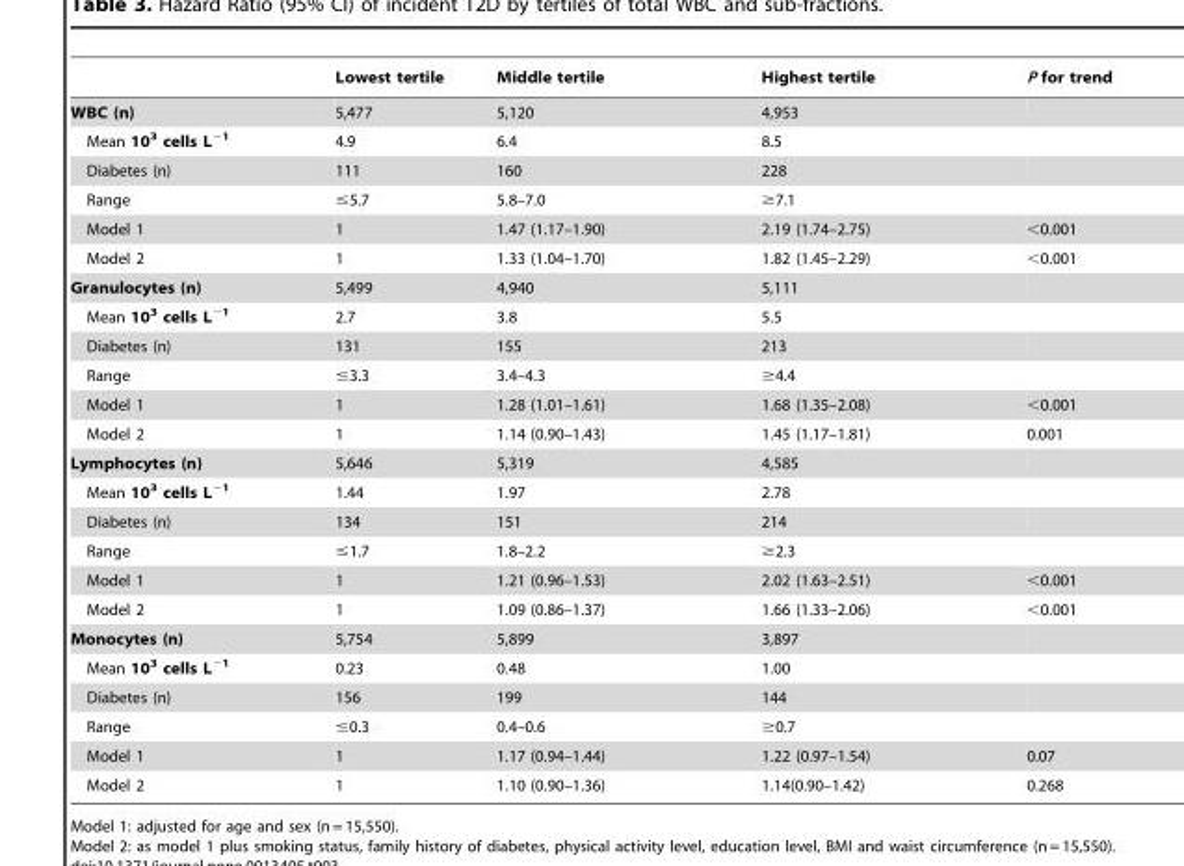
<table><thead><tr><td></td><td>Lowest tertile</td><td>Middle tertile</td><td>Highest tertile</td><td>P for trend</td></tr></thead><tbody><tr><td>WBC (n)</td><td>5,477</td><td>5,120</td><td>4,953</td><td></td></tr><tr><td>Mean 10<sup>3</sup> cells L<sup>−1</sup></td><td>4.9</td><td>6.4</td><td>8.5</td><td></td></tr><tr><td>Diabetes (n)</td><td>111</td><td>160</td><td>228</td><td></td></tr><tr><td>Range</td><td>≤5.7</td><td>5.8–7.0</td><td>≥7.1</td><td></td></tr><tr><td>Model 1</td><td>1</td><td>1.47 (1.17–1.90)</td><td>2.19 (1.74–2.75)</td><td>&lt;0.001</td></tr><tr><td>Model 2</td><td>1</td><td>1.33 (1.04–1.70)</td><td>1.82 (1.45–2.29)</td><td>&lt;0.001</td></tr><tr><td>Granulocytes (n)</td><td>5,499</td><td>4,940</td><td>5,111</td><td></td></tr><tr><td>Mean 10<sup>3</sup> cells L<sup>−1</sup></td><td>2.7</td><td>3.8</td><td>5.5</td><td></td></tr><tr><td>Diabetes (n)</td><td>131</td><td>155</td><td>213</td><td></td></tr><tr><td>Range</td><td>≤3.3</td><td>3.4–4.3</td><td>≥4.4</td><td></td></tr><tr><td>Model 1</td><td>1</td><td>1.28 (1.01–1.61)</td><td>1.68 (1.35–2.08)</td><td>&lt;0.001</td></tr><tr><td>Model 2</td><td>1</td><td>1.14 (0.90–1.43)</td><td>1.45 (1.17–1.81)</td><td>0.001</td></tr><tr><td>Lymphocytes (n)</td><td>5,646</td><td>5,319</td><td>4,585</td><td></td></tr><tr><td>Mean 10<sup>3</sup> cells L<sup>−1</sup></td><td>1.44</td><td>1.97</td><td>2.78</td><td></td></tr><tr><td>Diabetes (n)</td><td>134</td><td>151</td><td>214</td><td></td></tr><tr><td>Range</td><td>≤1.7</td><td>1.8–2.2</td><td>≥2.3</td><td></td></tr><tr><td>Model 1</td><td>1</td><td>1.21 (0.96–1.53)</td><td>2.02 (1.63–2.51)</td><td>&lt;0.001</td></tr><tr><td>Model 2</td><td>1</td><td>1.09 (0.86–1.37)</td><td>1.66 (1.33–2.06)</td><td>&lt;0.001</td></tr><tr><td>Monocytes (n)</td><td>5,754</td><td>5,899</td><td>3,897</td><td></td></tr><tr><td>Mean 10<sup>3</sup> cells L<sup>−1</sup></td><td>0.23</td><td>0.48</td><td>1.00</td><td></td></tr><tr><td>Diabetes (n)</td><td>156</td><td>199</td><td>144</td><td></td></tr><tr><td>Range</td><td>≤0.3</td><td>0.4–0.6</td><td>≥0.7</td><td></td></tr><tr><td>Model 1</td><td>1</td><td>1.17 (0.94–1.44)</td><td>1.22 (0.97–1.54)</td><td>0.07</td></tr><tr><td>Model 2</td><td>1</td><td>1.10 (0.90–1.36)</td><td>1.14(0.90–1.42)</td><td>0.268</td></tr></tbody></table>